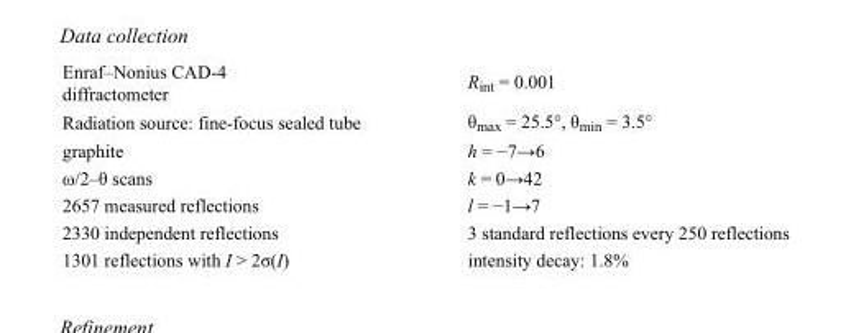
<table><tbody><tr><td>Enraf–Nonius CAD-4 diffractometer</td><td>R<sub>int</sub> = 0.001</td></tr><tr><td>Radiation source: fine-focus sealed tube</td><td>θ<sub>max</sub> = 25.5°, θ<sub>min</sub> = 3.5°</td></tr><tr><td>graphite</td><td>h = −7→6</td></tr><tr><td>ω/2–θ scans</td><td>k = 0→42</td></tr><tr><td>2657 measured reflections</td><td>l = −1→7</td></tr><tr><td>2330 independent reflections</td><td>3 standard reflections every 250 reflections</td></tr><tr><td>1301 reflections with I &gt; 2σ(I)</td><td>intensity decay: 1.8%</td></tr></tbody></table>